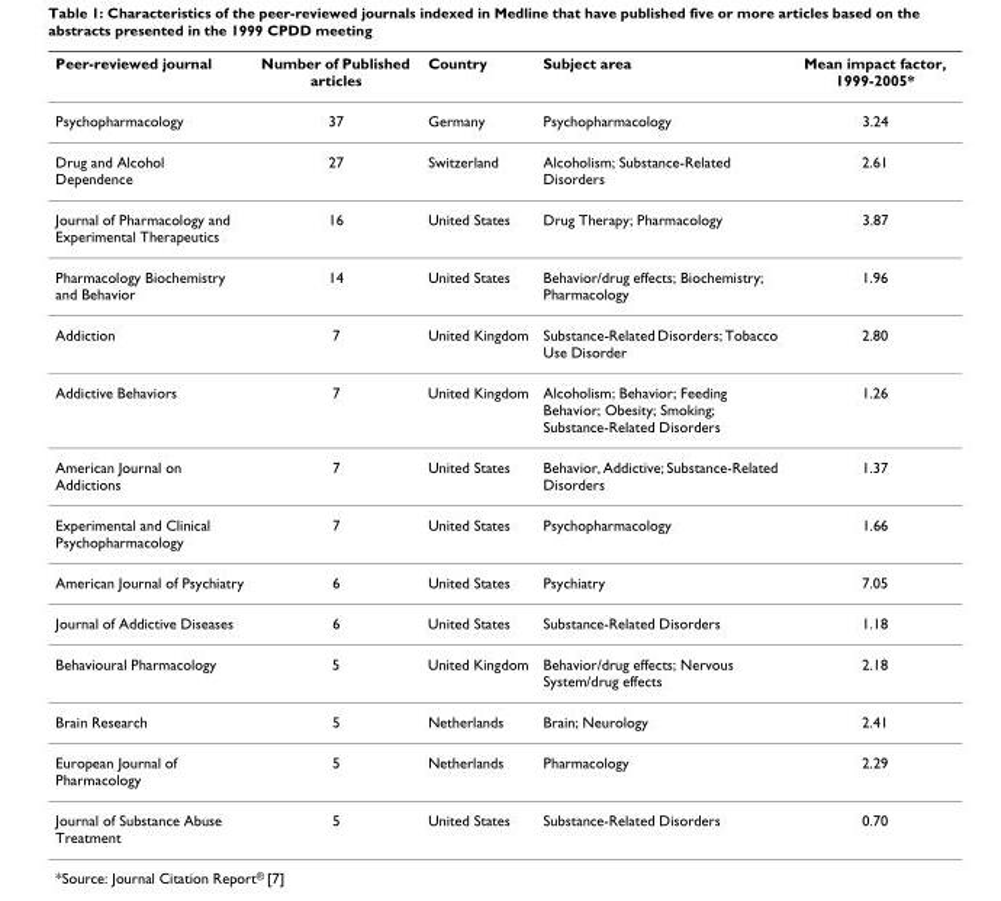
<table><thead><tr><td>Peer-reviewed journal</td><td>Number of Published articles</td><td>Country</td><td>Subject area</td><td>Mean impact factor, 1999-2005*</td></tr></thead><tbody><tr><td>Psychopharmacology</td><td>37</td><td>Germany</td><td>Psychopharmacology</td><td>3.24</td></tr><tr><td>Drug and Alcohol Dependence</td><td>27</td><td>Switzerland</td><td>Alcoholism; Substance-Related Disorders</td><td>2.61</td></tr><tr><td>Journal of Pharmacology and Experimental Therapeutics</td><td>16</td><td>United States</td><td>Drug Therapy; Pharmacology</td><td>3.87</td></tr><tr><td>Pharmacology Biochemistry and Behavior</td><td>14</td><td>United States</td><td>Behavior/drug effects; Biochemistry; Pharmacology</td><td>1.96</td></tr><tr><td>Addiction</td><td>7</td><td>United Kingdom</td><td>Substance-Related Disorders; Tobacco Use Disorder</td><td>2.80</td></tr><tr><td>Addictive Behaviors</td><td>7</td><td>United Kingdom</td><td>Alcoholism; Behavior; Feeding Behavior; Obesity; Smoking; Substance-Related Disorders</td><td>1.26</td></tr><tr><td>American Journal on Addictions</td><td>7</td><td>United States</td><td>Behavior, Addictive; Substance-Related Disorders</td><td>1.37</td></tr><tr><td>Experimental and Clinical Psychopharmacology</td><td>7</td><td>United States</td><td>Psychopharmacology</td><td>1.66</td></tr><tr><td>American Journal of Psychiatry</td><td>6</td><td>United States</td><td>Psychiatry</td><td>7.05</td></tr><tr><td>Journal of Addictive Diseases</td><td>6</td><td>United States</td><td>Substance-Related Disorders</td><td>1.18</td></tr><tr><td>Behavioural Pharmacology</td><td>5</td><td>United Kingdom</td><td>Behavior/drug effects; Nervous System/drug effects</td><td>2.18</td></tr><tr><td>Brain Research</td><td>5</td><td>Netherlands</td><td>Brain; Neurology</td><td>2.41</td></tr><tr><td>European Journal of Pharmacology</td><td>5</td><td>Netherlands</td><td>Pharmacology</td><td>2.29</td></tr><tr><td>Journal of Substance Abuse Treatment</td><td>5</td><td>United States</td><td>Substance-Related Disorders</td><td>0.70</td></tr></tbody></table>